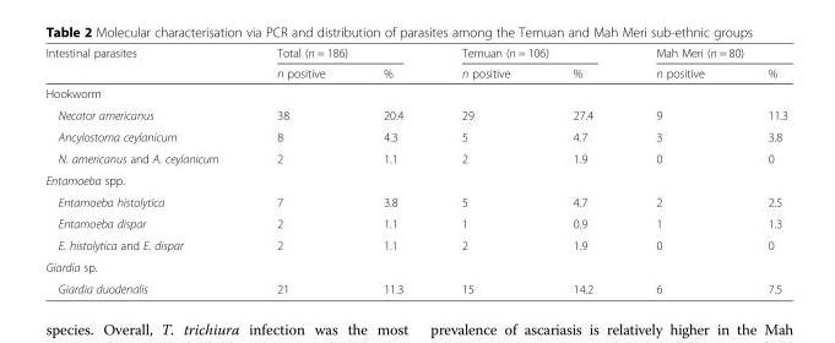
<table><thead><tr><td rowspan="2">Intestinal parasites</td><td colspan="2">Total (n = 186)</td><td colspan="2">Temuan (n = 106)</td><td colspan="2">Mah Meri (n = 80)</td></tr><tr><td>n positive</td><td>%</td><td>n positive</td><td>%</td><td>n positive</td><td>%</td></tr></thead><tbody><tr><td colspan="7">Hookworm</td></tr><tr><td>Necator americanus</td><td>38</td><td>20.4</td><td>29</td><td>27.4</td><td>9</td><td>11.3</td></tr><tr><td>Ancylostoma ceylanicum</td><td>8</td><td>4.3</td><td>5</td><td>4.7</td><td>3</td><td>3.8</td></tr><tr><td>N. americanus and A. ceylanicum</td><td>2</td><td>1.1</td><td>2</td><td>1.9</td><td>0</td><td>0</td></tr><tr><td colspan="7">Entamoeba spp.</td></tr><tr><td>Entamoeba histolytica</td><td>7</td><td>3.8</td><td>5</td><td>4.7</td><td>2</td><td>2.5</td></tr><tr><td>Entamoeba dispar</td><td>2</td><td>1.1</td><td>1</td><td>0.9</td><td>1</td><td>1.3</td></tr><tr><td>E. histolytica and E. dispar</td><td>2</td><td>1.1</td><td>2</td><td>1.9</td><td>0</td><td>0</td></tr><tr><td colspan="7">Giardia sp.</td></tr><tr><td>Giardia duodenalis</td><td>21</td><td>11.3</td><td>15</td><td>14.2</td><td>6</td><td>7.5</td></tr></tbody></table>